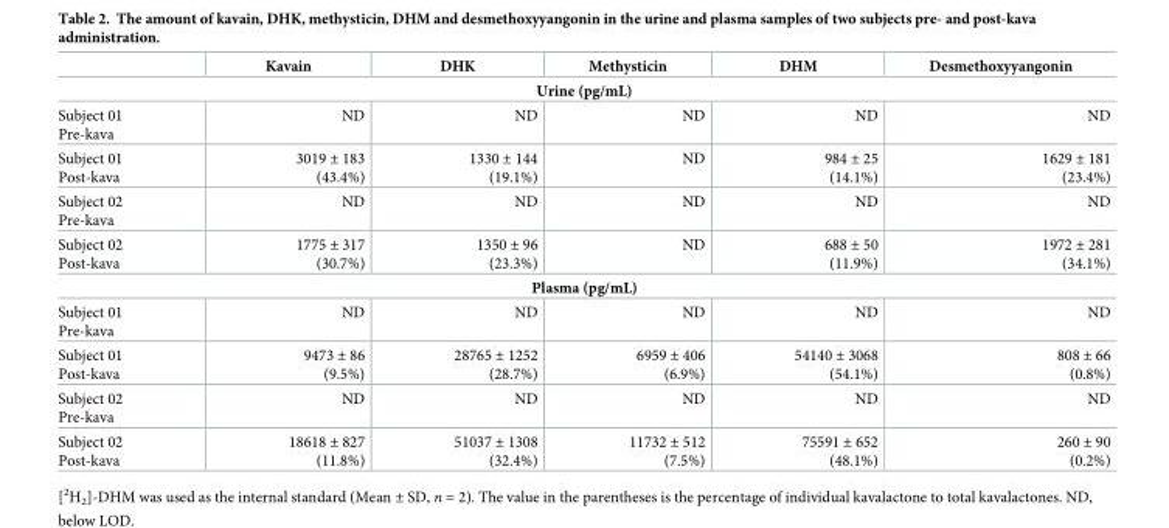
<table><thead><tr><td></td><td>Kavain</td><td>DHK</td><td>Methysticin</td><td>DHM</td><td>Desmethoxyyangonin</td></tr></thead><tbody><tr><td colspan="6">Urine (pg/mL)</td></tr><tr><td>Subject 01 Pre-kava</td><td>ND</td><td>ND</td><td>ND</td><td>ND</td><td>ND</td></tr><tr><td>Subject 01 Post-kava</td><td>3019 ± 183 (43.4%)</td><td>1330 ± 144 (19.1%)</td><td>ND</td><td>984 ± 25 (14.1%)</td><td>1629 ± 181 (23.4%)</td></tr><tr><td>Subject 02 Pre-kava</td><td>ND</td><td>ND</td><td>ND</td><td>ND</td><td>ND</td></tr><tr><td>Subject 02 Post-kava</td><td>1775 ± 317 (30.7%)</td><td>1350 ± 96 (23.3%)</td><td>ND</td><td>688 ± 50 (11.9%)</td><td>1972 ± 281 (34.1%)</td></tr><tr><td colspan="6">Plasma (pg/mL)</td></tr><tr><td>Subject 01 Pre-kava</td><td>ND</td><td>ND</td><td>ND</td><td>ND</td><td>ND</td></tr><tr><td>Subject 01 Post-kava</td><td>9473 ± 86 (9.5%)</td><td>28765 ± 1252 (28.7%)</td><td>6959 ± 406 (6.9%)</td><td>54140 ± 3068 (54.1%)</td><td>808 ± 66 (0.8%)</td></tr><tr><td>Subject 02 Pre-kava</td><td>ND</td><td>ND</td><td>ND</td><td>ND</td><td>ND</td></tr><tr><td>Subject 02 Post-kava</td><td>18618 ± 827 (11.8%)</td><td>51037 ± 1308 (32.4%)</td><td>11732 ± 512 (7.5%)</td><td>75591 ± 652 (48.1%)</td><td>260 ± 90 (0.2%)</td></tr></tbody></table>